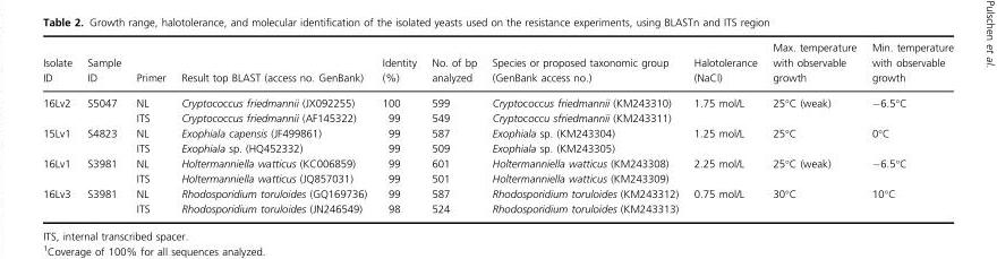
<table><thead><tr><td>Isolate ID</td><td>Sample ID</td><td>Primer</td><td>Result top BLAST (access no. GenBank)</td><td>Identity (%)</td><td>No. of bp analyzed</td><td>Species or proposed taxonomic group (GenBank access no.)</td><td>Halotolerance (NaCl)</td><td>Max. temperature with observable growth</td><td>Min. temperature with observable growth</td></tr></thead><tbody><tr><td rowspan="2">16Lv2</td><td rowspan="2">S5047</td><td>NL</td><td>Cryptococcus friedmannii (JX092255)</td><td>100</td><td>599</td><td>Cryptococcus friedmannii (KM243310)</td><td rowspan="2">1.75 mol/L</td><td rowspan="2">25°C (weak)</td><td rowspan="2">−6.5°C</td></tr><tr><td>ITS</td><td>Cryptococcus friedmannii (AF145322)</td><td>99</td><td>549</td><td>Cryptococcu sfriedmannii (KM243311)</td></tr><tr><td rowspan="2">15Lv1</td><td rowspan="2">S4823</td><td>NL</td><td>Exophiala capensis (JF499861)</td><td>99</td><td>587</td><td>Exophiala sp. (KM243304)</td><td rowspan="2">1.25 mol/L</td><td rowspan="2">25°C</td><td rowspan="2">0°C</td></tr><tr><td>ITS</td><td>Exophiala sp. (HQ452332)</td><td>99</td><td>509</td><td>Exophiala sp. (KM243305)</td></tr><tr><td rowspan="2">16Lv1</td><td rowspan="2">S3981</td><td>NL</td><td>Holtermanniella watticus (KC006859)</td><td>99</td><td>601</td><td>Holtermanniella watticus (KM243308)</td><td rowspan="2">2.25 mol/L</td><td rowspan="2">25°C (weak)</td><td rowspan="2">−6.5°C</td></tr><tr><td>ITS</td><td>Holtermanniella watticus (JQ857031)</td><td>99</td><td>501</td><td>Holtermanniella watticus (KM243309)</td></tr><tr><td rowspan="2">16Lv3</td><td rowspan="2">S3981</td><td>NL</td><td>Rhodosporidium toruloides (GQ169736)</td><td>99</td><td>587</td><td>Rhodosporidium toruloides (KM243312)</td><td rowspan="2">0.75 mol/L</td><td rowspan="2">30°C</td><td rowspan="2">10°C</td></tr><tr><td>ITS</td><td>Rhodosporidium toruloides (JN246549)</td><td>98</td><td>524</td><td>Rhodosporidium toruloides (KM243313)</td></tr></tbody></table>